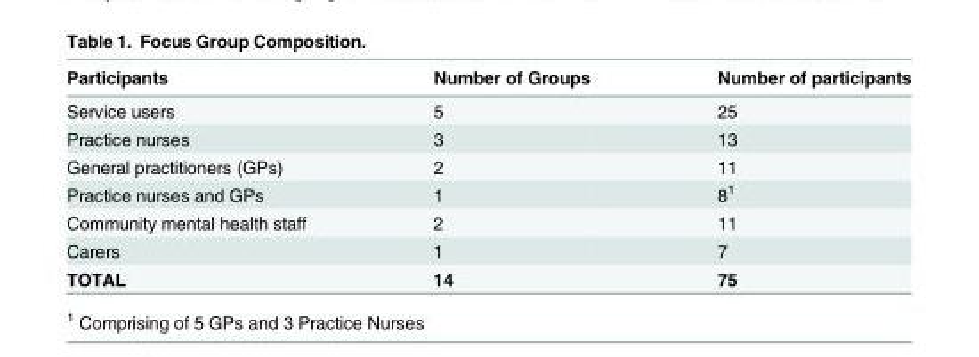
<table><thead><tr><td>Participants</td><td>Number of Groups</td><td>Number of participants</td></tr></thead><tbody><tr><td>Service users</td><td>5</td><td>25</td></tr><tr><td>Practice nurses</td><td>3</td><td>13</td></tr><tr><td>General practitioners (GPs)</td><td>2</td><td>11</td></tr><tr><td>Practice nurses and GPs</td><td>1</td><td>8<sup>1</sup></td></tr><tr><td>Community mental health staff</td><td>2</td><td>11</td></tr><tr><td>Carers</td><td>1</td><td>7</td></tr><tr><td>TOTAL</td><td>14</td><td>75</td></tr></tbody></table>